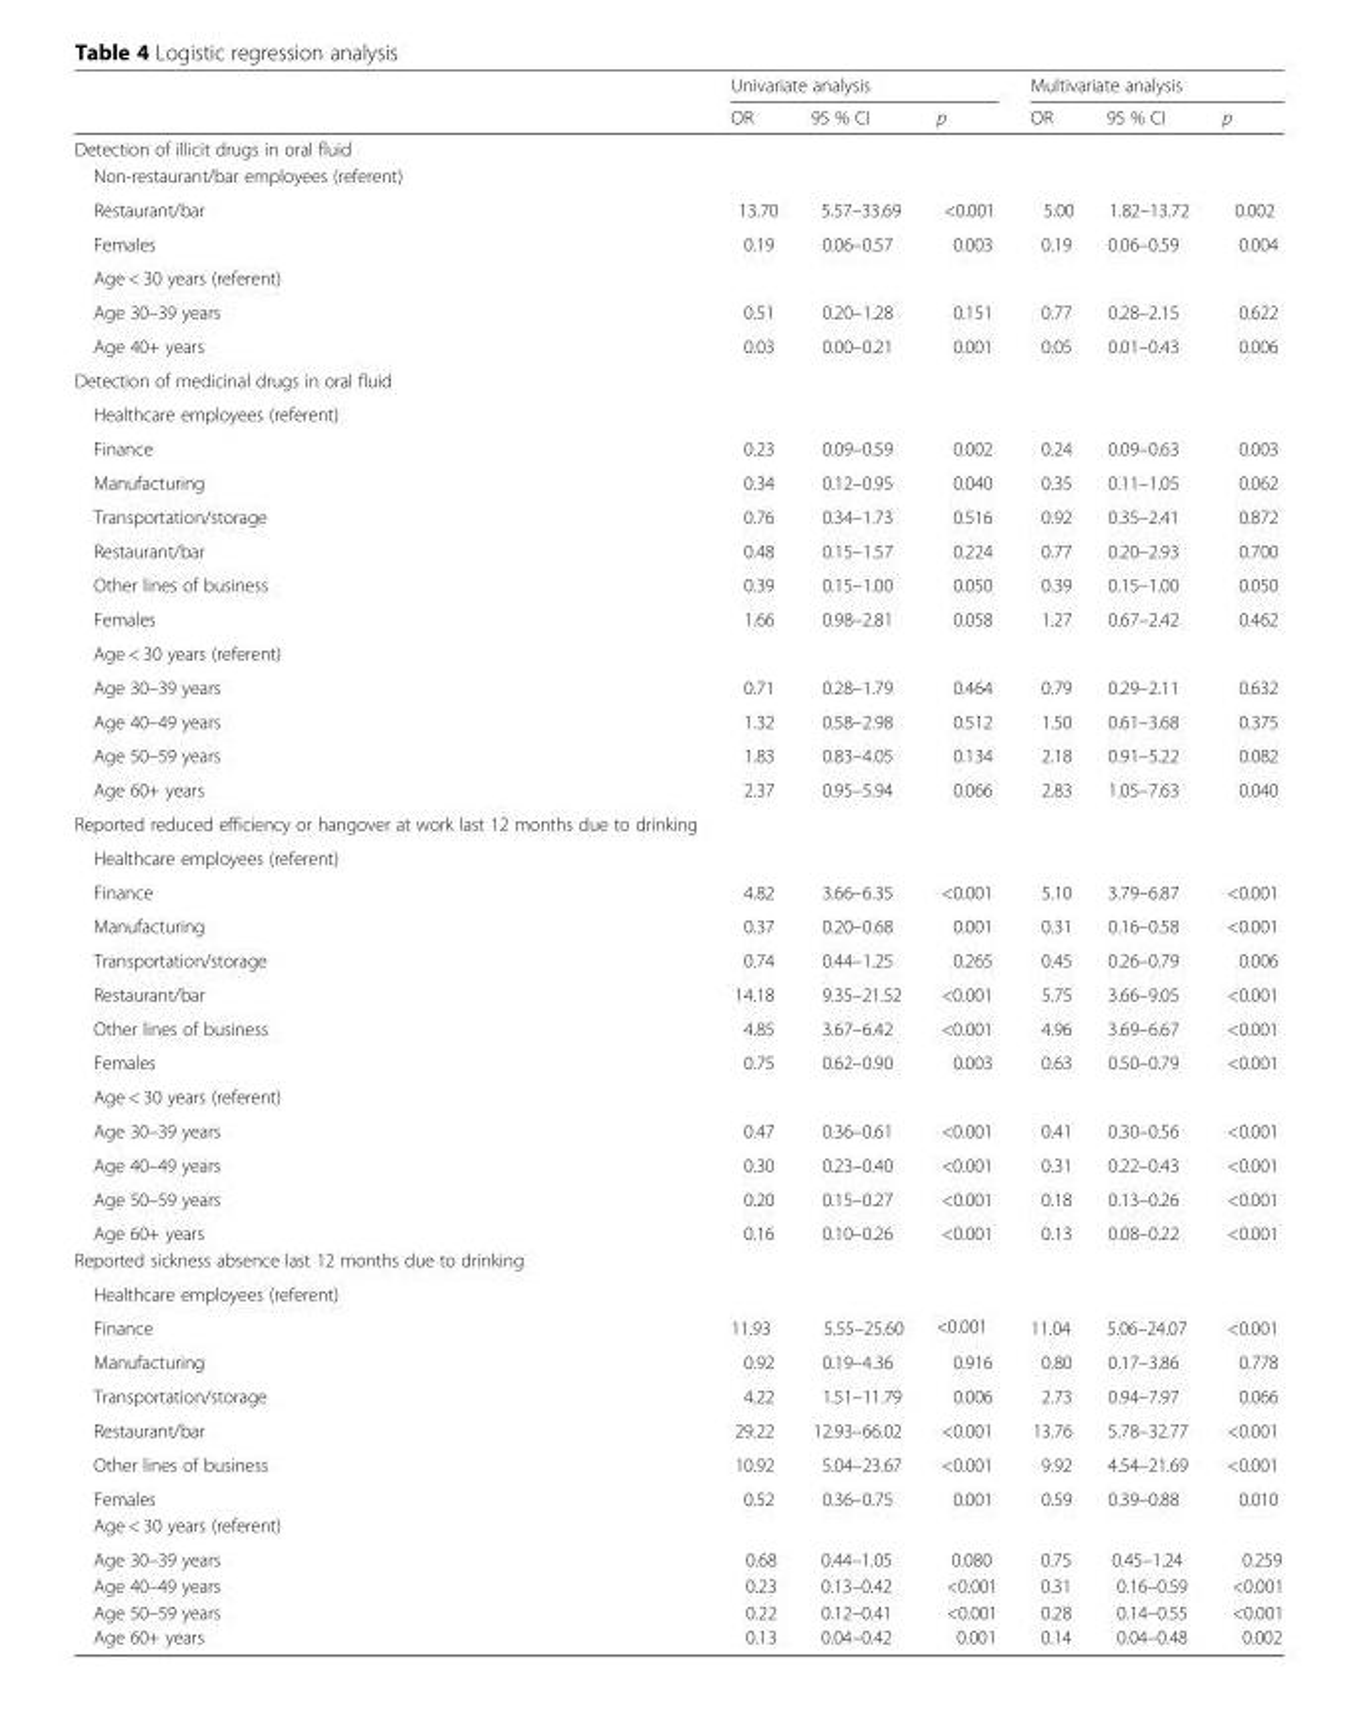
<table><thead><tr><td rowspan="2"></td><td colspan="3">Univariate analysis</td><td colspan="3">Multivariate analysis</td></tr><tr><td>OR</td><td>95 % CI</td><td>p</td><td>OR</td><td>95 % CI</td><td>p</td></tr></thead><tbody><tr><td colspan="7">Detection of illicit drugs in oral fluid</td></tr><tr><td colspan="7">Non-restaurant/bar employees (referent)</td></tr><tr><td>Restaurant/bar</td><td>13.70</td><td>5.57–33.69</td><td>&lt;0.001</td><td>5.00</td><td>1.82–13.72</td><td>0.002</td></tr><tr><td>Females</td><td>0.19</td><td>0.06–0.57</td><td>0.003</td><td>0.19</td><td>0.06–0.59</td><td>0.004</td></tr><tr><td colspan="7">Age &lt; 30 years (referent)</td></tr><tr><td>Age 30–39 years</td><td>0.51</td><td>0.20–1.28</td><td>0.151</td><td>0.77</td><td>0.28–2.15</td><td>0.622</td></tr><tr><td>Age 40+ years</td><td>0.03</td><td>0.00–0.21</td><td>0.001</td><td>0.05</td><td>0.01–0.43</td><td>0.006</td></tr><tr><td colspan="7">Detection of medicinal drugs in oral fluid</td></tr><tr><td colspan="7">Healthcare employees (referent)</td></tr><tr><td>Finance</td><td>0.23</td><td>0.09–0.59</td><td>0.002</td><td>0.24</td><td>0.09–0.63</td><td>0.003</td></tr><tr><td>Manufacturing</td><td>0.34</td><td>0.12–0.95</td><td>0.040</td><td>0.35</td><td>0.11–1.05</td><td>0.062</td></tr><tr><td>Transportation/storage</td><td>0.76</td><td>0.34–1.73</td><td>0.516</td><td>0.92</td><td>0.35–2.41</td><td>0.872</td></tr><tr><td>Restaurant/bar</td><td>0.48</td><td>0.15–1.57</td><td>0.224</td><td>0.77</td><td>0.20–2.93</td><td>0.700</td></tr><tr><td>Other lines of business</td><td>0.39</td><td>0.15–1.00</td><td>0.050</td><td>0.39</td><td>0.15–1.00</td><td>0.050</td></tr><tr><td>Females</td><td>1.66</td><td>0.98–2.81</td><td>0.058</td><td>1.27</td><td>0.67–2.42</td><td>0.462</td></tr><tr><td colspan="7">Age &lt; 30 years (referent)</td></tr><tr><td>Age 30–39 years</td><td>0.71</td><td>0.28–1.79</td><td>0.464</td><td>0.79</td><td>0.29–2.11</td><td>0.632</td></tr><tr><td>Age 40–49 years</td><td>1.32</td><td>0.58–2.98</td><td>0.512</td><td>1.50</td><td>0.61–3.68</td><td>0.375</td></tr><tr><td>Age 50–59 years</td><td>1.83</td><td>0.83–4.05</td><td>0.134</td><td>2.18</td><td>0.91–5.22</td><td>0.082</td></tr><tr><td>Age 60+ years</td><td>2.37</td><td>0.95–5.94</td><td>0.066</td><td>2.83</td><td>1.05–7.63</td><td>0.040</td></tr><tr><td colspan="7">Reported reduced efficiency or hangover at work last 12 months due to drinking</td></tr><tr><td colspan="7">Healthcare employees (referent)</td></tr><tr><td>Finance</td><td>4.82</td><td>3.66–6.35</td><td>&lt;0.001</td><td>5.10</td><td>3.79–6.87</td><td>&lt;0.001</td></tr><tr><td>Manufacturing</td><td>0.37</td><td>0.20–0.68</td><td>0.001</td><td>0.31</td><td>0.16–0.58</td><td>&lt;0.001</td></tr><tr><td>Transportation/storage</td><td>0.74</td><td>0.44–1.25</td><td>0.265</td><td>0.45</td><td>0.26–0.79</td><td>0.006</td></tr><tr><td>Restaurant/bar</td><td>14.18</td><td>9.35–21.52</td><td>&lt;0.001</td><td>5.75</td><td>3.66–9.05</td><td>&lt;0.001</td></tr><tr><td>Other lines of business</td><td>4.85</td><td>3.67–6.42</td><td>&lt;0.001</td><td>4.96</td><td>3.69–6.67</td><td>&lt;0.001</td></tr><tr><td>Females</td><td>0.75</td><td>0.62–0.90</td><td>0.003</td><td>0.63</td><td>0.50–0.79</td><td>&lt;0.001</td></tr><tr><td colspan="7">Age &lt; 30 years (referent)</td></tr><tr><td>Age 30–39 years</td><td>0.47</td><td>0.36–0.61</td><td>&lt;0.001</td><td>0.41</td><td>0.30–0.56</td><td>&lt;0.001</td></tr><tr><td>Age 40–49 years</td><td>0.30</td><td>0.23–0.40</td><td>&lt;0.001</td><td>0.31</td><td>0.22–0.43</td><td>&lt;0.001</td></tr><tr><td>Age 50–59 years</td><td>0.20</td><td>0.15–0.27</td><td>&lt;0.001</td><td>0.18</td><td>0.13–0.26</td><td>&lt;0.001</td></tr><tr><td>Age 60+ years</td><td>0.16</td><td>0.10–0.26</td><td>&lt;0.001</td><td>0.13</td><td>0.08–0.22</td><td>&lt;0.001</td></tr><tr><td colspan="7">Reported sickness absence last 12 months due to drinking</td></tr><tr><td colspan="7">Healthcare employees (referent)</td></tr><tr><td>Finance</td><td>11.93</td><td>5.55–25.60</td><td>&lt;0.001</td><td>11.04</td><td>5.06–24.07</td><td>&lt;0.001</td></tr><tr><td>Manufacturing</td><td>0.92</td><td>0.19–4.36</td><td>0.916</td><td>0.80</td><td>0.17–3.86</td><td>0.778</td></tr><tr><td>Transportation/storage</td><td>4.22</td><td>1.51–11.79</td><td>0.006</td><td>2.73</td><td>0.94–7.97</td><td>0.066</td></tr><tr><td>Restaurant/bar</td><td>29.22</td><td>12.93–66.02</td><td>&lt;0.001</td><td>13.76</td><td>5.78–32.77</td><td>&lt;0.001</td></tr><tr><td>Other lines of business</td><td>10.92</td><td>5.04–23.67</td><td>&lt;0.001</td><td>9.92</td><td>4.54–21.69</td><td>&lt;0.001</td></tr><tr><td>Females</td><td>0.52</td><td>0.36–0.75</td><td>0.001</td><td>0.59</td><td>0.39–0.88</td><td>0.010</td></tr><tr><td colspan="7">Age &lt; 30 years (referent)</td></tr><tr><td>Age 30–39 years</td><td>0.68</td><td>0.44–1.05</td><td>0.080</td><td>0.75</td><td>0.45–1.24</td><td>0.259</td></tr><tr><td>Age 40–49 years</td><td>0.23</td><td>0.13–0.42</td><td>&lt;0.001</td><td>0.31</td><td>0.16–0.59</td><td>&lt;0.001</td></tr><tr><td>Age 50–59 years</td><td>0.22</td><td>0.12–0.41</td><td>&lt;0.001</td><td>0.28</td><td>0.14–0.55</td><td>&lt;0.001</td></tr><tr><td>Age 60+ years</td><td>0.13</td><td>0.04–0.42</td><td>0.001</td><td>0.14</td><td>0.04–0.48</td><td>0.002</td></tr></tbody></table>